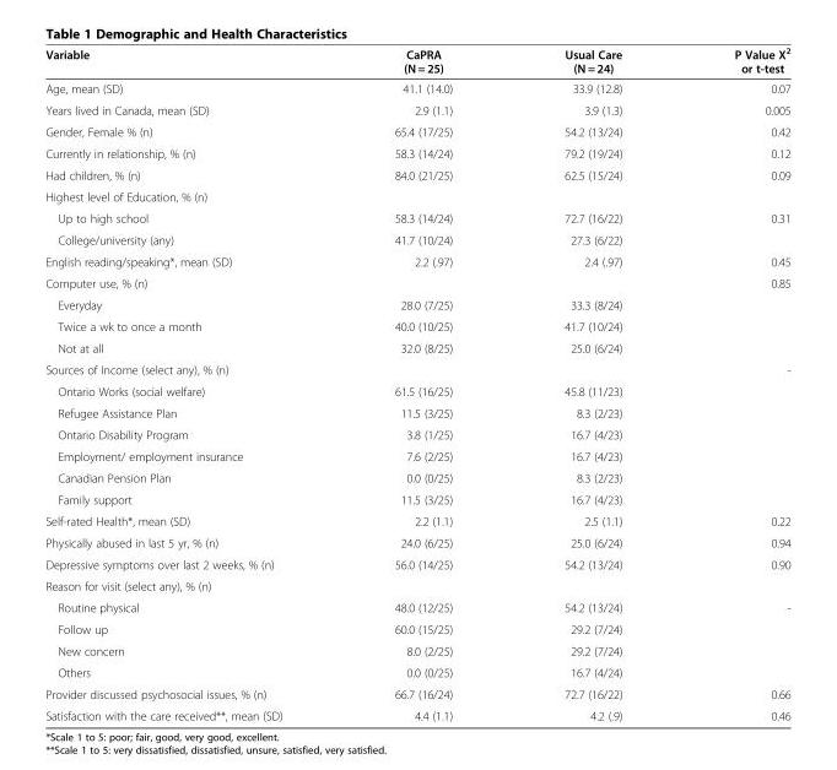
<table><thead><tr><td>Variable</td><td>CaPRA (N = 25)</td><td>Usual Care (N = 24)</td><td>P Value X<sup>2</sup> or t-test</td></tr></thead><tbody><tr><td>Age, mean (SD)</td><td>41.1 (14.0)</td><td>33.9 (12.8)</td><td>0.07</td></tr><tr><td>Years lived in Canada, mean (SD)</td><td>2.9 (1.1)</td><td>3.9 (1.3)</td><td>0.005</td></tr><tr><td>Gender, Female % (n)</td><td>65.4 (17/25)</td><td>54.2 (13/24)</td><td>0.42</td></tr><tr><td>Currently in relationship, % (n)</td><td>58.3 (14/24)</td><td>79.2 (19/24)</td><td>0.12</td></tr><tr><td>Had children, % (n)</td><td>84.0 (21/25)</td><td>62.5 (15/24)</td><td>0.09</td></tr><tr><td colspan="4">Highest level of Education, % (n)</td></tr><tr><td>Up to high school</td><td>58.3 (14/24)</td><td>72.7 (16/22)</td><td>0.31</td></tr><tr><td>College/university (any)</td><td>41.7 (10/24)</td><td>27.3 (6/22)</td><td></td></tr><tr><td>English reading/speaking*, mean (SD)</td><td>2.2 (.97)</td><td>2.4 (.97)</td><td>0.45</td></tr><tr><td>Computer use, % (n)</td><td></td><td></td><td>0.85</td></tr><tr><td>Everyday</td><td>28.0 (7/25)</td><td>33.3 (8/24)</td><td></td></tr><tr><td>Twice a wk to once a month</td><td>40.0 (10/25)</td><td>41.7 (10/24)</td><td></td></tr><tr><td>Not at all</td><td>32.0 (8/25)</td><td>25.0 (6/24)</td><td></td></tr><tr><td>Sources of Income (select any), % (n)</td><td></td><td></td><td>-</td></tr><tr><td>Ontario Works (social welfare)</td><td>61.5 (16/25)</td><td>45.8 (11/23)</td><td></td></tr><tr><td>Refugee Assistance Plan</td><td>11.5 (3/25)</td><td>8.3 (2/23)</td><td></td></tr><tr><td>Ontario Disability Program</td><td>3.8 (1/25)</td><td>16.7 (4/23)</td><td></td></tr><tr><td>Employment/ employment insurance</td><td>7.6 (2/25)</td><td>16.7 (4/23)</td><td></td></tr><tr><td>Canadian Pension Plan</td><td>0.0 (0/25)</td><td>8.3 (2/23)</td><td></td></tr><tr><td>Family support</td><td>11.5 (3/25)</td><td>16.7 (4/23)</td><td></td></tr><tr><td>Self-rated Health*, mean (SD)</td><td>2.2 (1.1)</td><td>2.5 (1.1)</td><td>0.22</td></tr><tr><td>Physically abused in last 5 yr, % (n)</td><td>24.0 (6/25)</td><td>25.0 (6/24)</td><td>0.94</td></tr><tr><td>Depressive symptoms over last 2 weeks, % (n)</td><td>56.0 (14/25)</td><td>54.2 (13/24)</td><td>0.90</td></tr><tr><td colspan="4">Reason for visit (select any), % (n)</td></tr><tr><td>Routine physical</td><td>48.0 (12/25)</td><td>54.2 (13/24)</td><td>-</td></tr><tr><td>Follow up</td><td>60.0 (15/25)</td><td>29.2 (7/24)</td><td></td></tr><tr><td>New concern</td><td>8.0 (2/25)</td><td>29.2 (7/24)</td><td></td></tr><tr><td>Others</td><td>0.0 (0/25)</td><td>16.7 (4/24)</td><td></td></tr><tr><td>Provider discussed psychosocial issues, % (n)</td><td>66.7 (16/24)</td><td>72.7 (16/22)</td><td>0.66</td></tr><tr><td>Satisfaction with the care received**, mean (SD)</td><td>4.4 (1.1)</td><td>4.2 (.9)</td><td>0.46</td></tr></tbody></table>